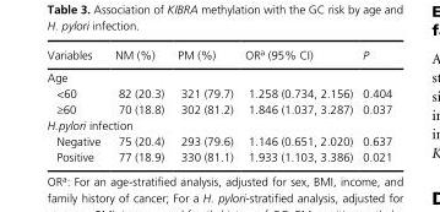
<table><thead><tr><td>Variables</td><td>NM (%)</td><td>PM (%)</td><td>OR<sup>a</sup> (95% CI)</td><td>P</td></tr></thead><tbody><tr><td colspan="5">Age</td></tr><tr><td>&lt;60</td><td>82 (20.3)</td><td>321 (79.7)</td><td>1.258 (0.734, 2.156)</td><td>0.404</td></tr><tr><td>≥60</td><td>70 (18.8)</td><td>302 (81.2)</td><td>1.846 (1.037, 3.287)</td><td>0.037</td></tr><tr><td colspan="5">H.pylori infection</td></tr><tr><td>Negative</td><td>75 (20.4)</td><td>293 (79.6)</td><td>1.146 (0.651, 2.020)</td><td>0.637</td></tr><tr><td>Positive</td><td>77 (18.9)</td><td>330 (81.1)</td><td>1.933 (1.103, 3.386)</td><td>0.021</td></tr></tbody></table>